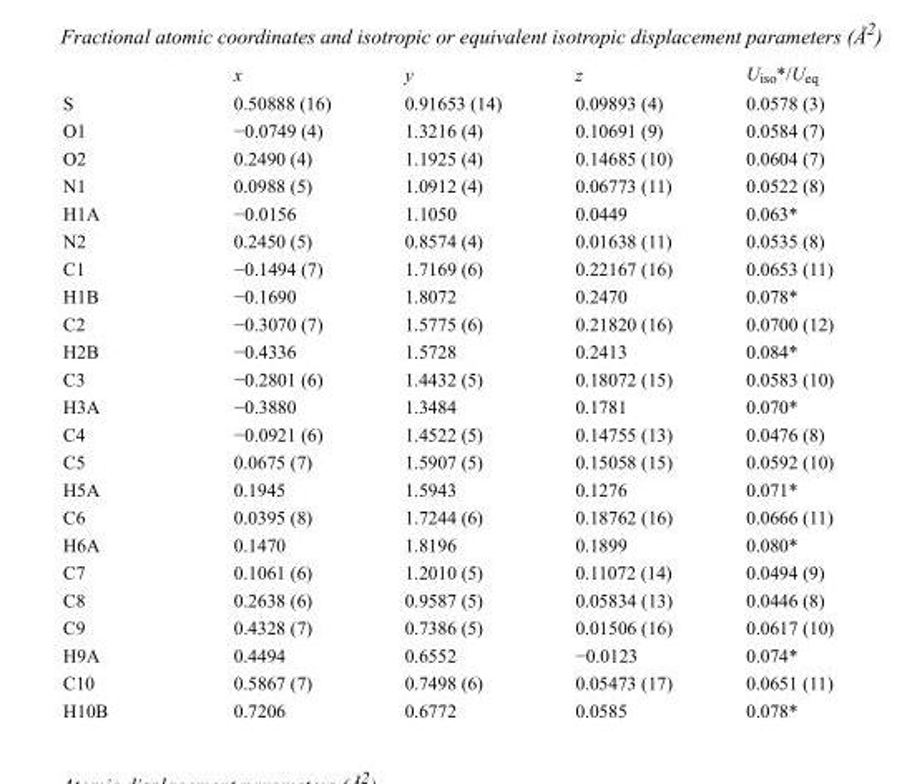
<table><thead><tr><td></td><td>x</td><td>y</td><td>z</td><td>U<sub>iso</sub>*/U<sub>eq</sub></td></tr></thead><tbody><tr><td>S</td><td>0.50888 (16)</td><td>0.91653 (14)</td><td>0.09893 (4)</td><td>0.0578 (3)</td></tr><tr><td>O1</td><td>−0.0749 (4)</td><td>1.3216 (4)</td><td>0.10691 (9)</td><td>0.0584 (7)</td></tr><tr><td>O2</td><td>0.2490 (4)</td><td>1.1925 (4)</td><td>0.14685 (10)</td><td>0.0604 (7)</td></tr><tr><td>N1</td><td>0.0988 (5)</td><td>1.0912 (4)</td><td>0.06773 (11)</td><td>0.0522 (8)</td></tr><tr><td>H1A</td><td>−0.0156</td><td>1.1050</td><td>0.0449</td><td>0.063*</td></tr><tr><td>N2</td><td>0.2450 (5)</td><td>0.8574 (4)</td><td>0.01638 (11)</td><td>0.0535 (8)</td></tr><tr><td>C1</td><td>−0.1494 (7)</td><td>1.7169 (6)</td><td>0.22167 (16)</td><td>0.0653 (11)</td></tr><tr><td>H1B</td><td>−0.1690</td><td>1.8072</td><td>0.2470</td><td>0.078*</td></tr><tr><td>C2</td><td>−0.3070 (7)</td><td>1.5775 (6)</td><td>0.21820 (16)</td><td>0.0700 (12)</td></tr><tr><td>H2B</td><td>−0.4336</td><td>1.5728</td><td>0.2413</td><td>0.084*</td></tr><tr><td>C3</td><td>−0.2801 (6)</td><td>1.4432 (5)</td><td>0.18072 (15)</td><td>0.0583 (10)</td></tr><tr><td>H3A</td><td>−0.3880</td><td>1.3484</td><td>0.1781</td><td>0.070*</td></tr><tr><td>C4</td><td>−0.0921 (6)</td><td>1.4522 (5)</td><td>0.14755 (13)</td><td>0.0476 (8)</td></tr><tr><td>C5</td><td>0.0675 (7)</td><td>1.5907 (5)</td><td>0.15058 (15)</td><td>0.0592 (10)</td></tr><tr><td>H5A</td><td>0.1945</td><td>1.5943</td><td>0.1276</td><td>0.071*</td></tr><tr><td>C6</td><td>0.0395 (8)</td><td>1.7244 (6)</td><td>0.18762 (16)</td><td>0.0666 (11)</td></tr><tr><td>H6A</td><td>0.1470</td><td>1.8196</td><td>0.1899</td><td>0.080*</td></tr><tr><td>C7</td><td>0.1061 (6)</td><td>1.2010 (5)</td><td>0.11072 (14)</td><td>0.0494 (9)</td></tr><tr><td>C8</td><td>0.2638 (6)</td><td>0.9587 (5)</td><td>0.05834 (13)</td><td>0.0446 (8)</td></tr><tr><td>C9</td><td>0.4328 (7)</td><td>0.7386 (5)</td><td>0.01506 (16)</td><td>0.0617 (10)</td></tr><tr><td>H9A</td><td>0.4494</td><td>0.6552</td><td>−0.0123</td><td>0.074*</td></tr><tr><td>C10</td><td>0.5867 (7)</td><td>0.7498 (6)</td><td>0.05473 (17)</td><td>0.0651 (11)</td></tr><tr><td>H10B</td><td>0.7206</td><td>0.6772</td><td>0.0585</td><td>0.078*</td></tr></tbody></table>